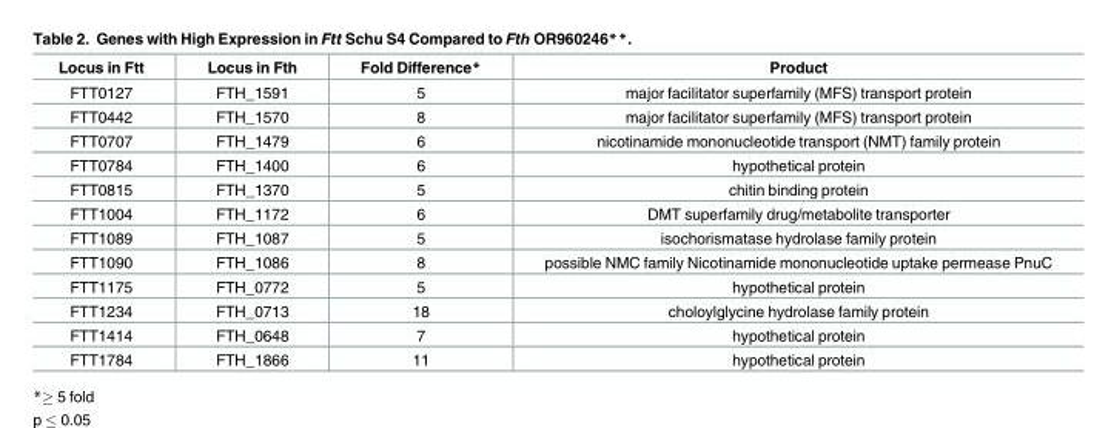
<table><thead><tr><td>Locus in Ftt</td><td>Locus in Fth</td><td>Fold Difference*</td><td>Product</td></tr></thead><tbody><tr><td>FTT0127</td><td>FTH_1591</td><td>5</td><td>major facilitator superfamily (MFS) transport protein</td></tr><tr><td>FTT0442</td><td>FTH_1570</td><td>8</td><td>major facilitator superfamily (MFS) transport protein</td></tr><tr><td>FTT0707</td><td>FTH_1479</td><td>6</td><td>nicotinamide mononucleotide transport (NMT) family protein</td></tr><tr><td>FTT0784</td><td>FTH_1400</td><td>6</td><td>hypothetical protein</td></tr><tr><td>FTT0815</td><td>FTH_1370</td><td>5</td><td>chitin binding protein</td></tr><tr><td>FTT1004</td><td>FTH_1172</td><td>6</td><td>DMT superfamily drug/metabolite transporter</td></tr><tr><td>FTT1089</td><td>FTH_1087</td><td>5</td><td>isochorismatase hydrolase family protein</td></tr><tr><td>FTT1090</td><td>FTH_1086</td><td>8</td><td>possible NMC family Nicotinamide mononucleotide uptake permease PnuC</td></tr><tr><td>FTT1175</td><td>FTH_0772</td><td>5</td><td>hypothetical protein</td></tr><tr><td>FTT1234</td><td>FTH_0713</td><td>18</td><td>choloylglycine hydrolase family protein</td></tr><tr><td>FTT1414</td><td>FTH_0648</td><td>7</td><td>hypothetical protein</td></tr><tr><td>FTT1784</td><td>FTH_1866</td><td>11</td><td>hypothetical protein</td></tr></tbody></table>